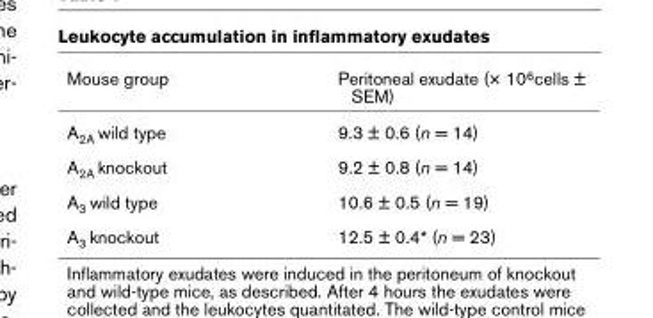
<table><thead><tr><td>Mouse group</td><td>Peritoneal exudate (× 106cells ± SEM)</td></tr></thead><tbody><tr><td>A2A wild type</td><td>9.3 ± 0.6 (n = 14)</td></tr><tr><td>A2A knockout</td><td>9.2 ± 0.8 (n = 14)</td></tr><tr><td>A3 wild type</td><td>10.6 ± 0.5 (n = 19)</td></tr><tr><td>A3 knockout</td><td>12.5 ± 0.4* (n = 23)</td></tr></tbody></table>